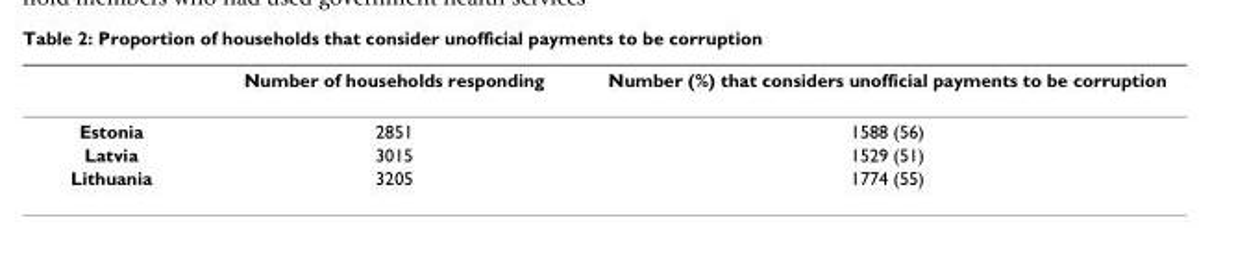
<table><thead><tr><td></td><td>Number of households responding</td><td>Number (%) that considers unofficial payments to be corruption</td></tr></thead><tbody><tr><td>Estonia</td><td>2851</td><td>1588 (56)</td></tr><tr><td>Latvia</td><td>3015</td><td>1529 (51)</td></tr><tr><td>Lithuania</td><td>3205</td><td>1774 (55)</td></tr></tbody></table>